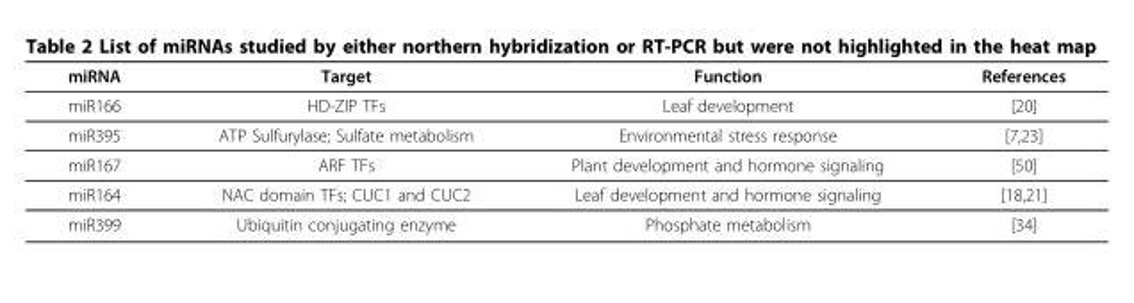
<table><thead><tr><td>miRNA</td><td>Target</td><td>Function</td><td>References</td></tr></thead><tbody><tr><td>miR166</td><td>HD-ZIP TFs</td><td>Leaf development</td><td>[20]</td></tr><tr><td>miR395</td><td>ATP Sulfurylase; Sulfate metabolism</td><td>Environmental stress response</td><td>[7,23]</td></tr><tr><td>miR167</td><td>ARF TFs</td><td>Plant development and hormone signaling</td><td>[50]</td></tr><tr><td>miR164</td><td>NAC domain TFs; CUC1 and CUC2</td><td>Leaf development and hormone signaling</td><td>[18,21]</td></tr><tr><td>miR399</td><td>Ubiquitin conjugating enzyme</td><td>Phosphate metabolism</td><td>[34]</td></tr></tbody></table>